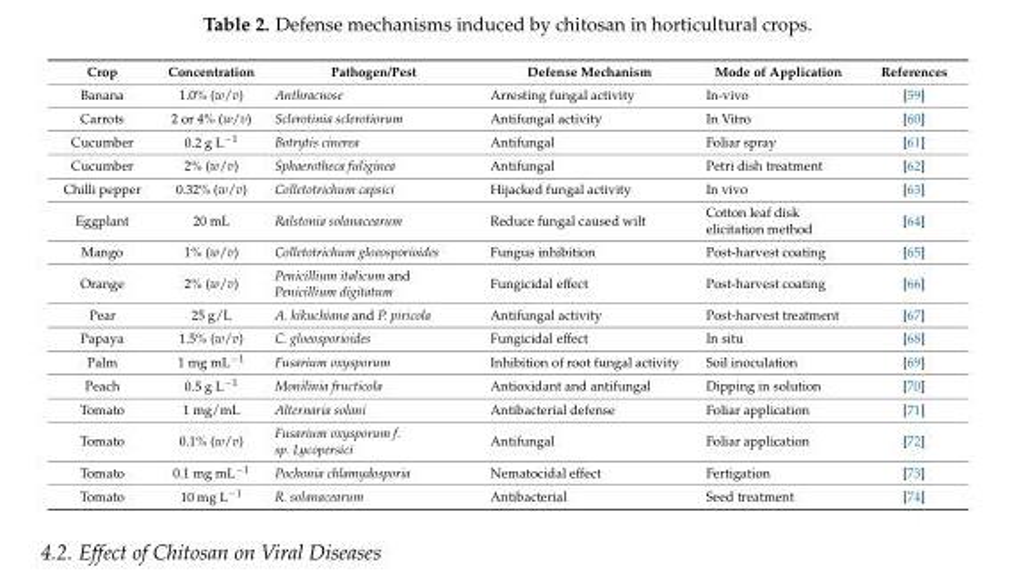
<table><thead><tr><td>Crop</td><td>Concentration</td><td>Pathogen/Pest</td><td>Defense Mechanism</td><td>Mode of Application</td><td>References</td></tr></thead><tbody><tr><td>Banana</td><td>1.0% (w/v)</td><td>Anthracnose</td><td>Arresting fungal activity</td><td>In-vivo</td><td>[59]</td></tr><tr><td>Carrots</td><td>2 or 4% (w/v)</td><td>Sclerotinia sclerotiorum</td><td>Antifungal activity</td><td>In Vitro</td><td>[60]</td></tr><tr><td>Cucumber</td><td>0.2 g L<sup>−1</sup></td><td>Botrytis cinerea</td><td>Antifungal</td><td>Foliar spray</td><td>[61]</td></tr><tr><td>Cucumber</td><td>2% (w/v)</td><td>Sphaerotheca fuliginea</td><td>Antifungal</td><td>Petri dish treatment</td><td>[62]</td></tr><tr><td>Chilli pepper</td><td>0.32% (w/v)</td><td>Colletotrichum capsici</td><td>Hijacked fungal activity</td><td>In vivo</td><td>[63]</td></tr><tr><td>Eggplant</td><td>20 mL</td><td>Ralstonia solanacearum</td><td>Reduce fungal caused wilt</td><td>Cotton leaf disk elicitation method</td><td>[64]</td></tr><tr><td>Mango</td><td>1% (w/v)</td><td>Colletotrichum gloeosporioides</td><td>Fungus inhibition</td><td>Post-harvest coating</td><td>[65]</td></tr><tr><td>Orange</td><td>2% (w/v)</td><td>Penicillium italicum and Penicillium digitatum</td><td>Fungicidal effect</td><td>Post-harvest coating</td><td>[66]</td></tr><tr><td>Pear</td><td>25 g/L</td><td>A. kikuchiana and P. piricola</td><td>Antifungal activity</td><td>Post-harvest treatment</td><td>[67]</td></tr><tr><td>Papaya</td><td>1.5% (w/v)</td><td>C. gloeosporioides</td><td>Fungicidal effect</td><td>In situ</td><td>[68]</td></tr><tr><td>Palm</td><td>1 mg mL<sup>−1</sup></td><td>Fusarium oxysporum</td><td>Inhibition of root fungal activity</td><td>Soil inoculation</td><td>[69]</td></tr><tr><td>Peach</td><td>0.5 g L<sup>−1</sup></td><td>Monilinia fructicola</td><td>Antioxidant and antifungal</td><td>Dipping in solution</td><td>[70]</td></tr><tr><td>Tomato</td><td>1 mg/mL</td><td>Alternaria solani</td><td>Antibacterial defense</td><td>Foliar application</td><td>[71]</td></tr><tr><td>Tomato</td><td>0.1% (w/v)</td><td>Fusarium oxysporum f. sp. Lycopersici</td><td>Antifungal</td><td>Foliar application</td><td>[72]</td></tr><tr><td>Tomato</td><td>0.1 mg mL<sup>−1</sup></td><td>Pochonia chlamydosporia</td><td>Nematocidal effect</td><td>Fertigation</td><td>[73]</td></tr><tr><td>Tomato</td><td>10 mg L<sup>−1</sup></td><td>R. solanacearum</td><td>Antibacterial</td><td>Seed treatment</td><td>[74]</td></tr></tbody></table>